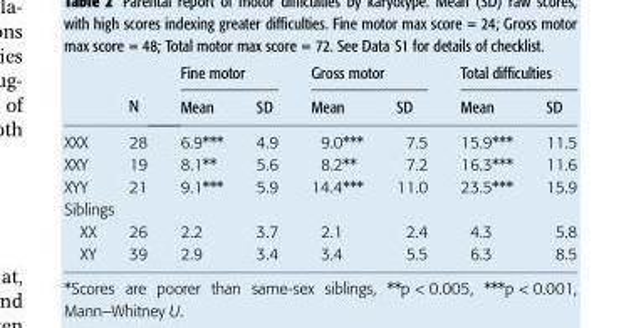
<table><thead><tr><td rowspan="2"></td><td rowspan="2">N</td><td colspan="2">Fine motor</td><td colspan="2">Gross motor</td><td colspan="2">Total difficulties</td></tr><tr><td>Mean</td><td>SD</td><td>Mean</td><td>SD</td><td>Mean</td><td>SD</td></tr></thead><tbody><tr><td>XXX</td><td>28</td><td>6.9***</td><td>4.9</td><td>9.0***</td><td>7.5</td><td>15.9***</td><td>11.5</td></tr><tr><td>XXY</td><td>19</td><td>8.1**</td><td>5.6</td><td>8.2**</td><td>7.2</td><td>16.3***</td><td>11.6</td></tr><tr><td>XYY</td><td>21</td><td>9.1***</td><td>5.9</td><td>14.4***</td><td>11.0</td><td>23.5***</td><td>15.9</td></tr><tr><td colspan="8">Siblings</td></tr><tr><td>XX</td><td>26</td><td>2.2</td><td>3.7</td><td>2.1</td><td>2.4</td><td>4.3</td><td>5.8</td></tr><tr><td>XY</td><td>39</td><td>2.9</td><td>3.4</td><td>3.4</td><td>5.5</td><td>6.3</td><td>8.5</td></tr></tbody></table>